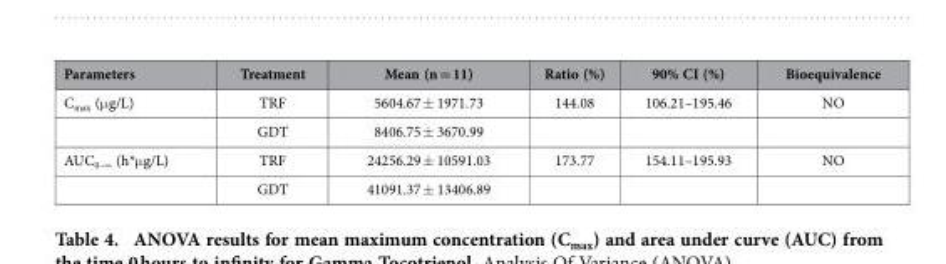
<table><thead><tr><td>Parameters</td><td>Treatment</td><td>Mean (n = 11)</td><td>Ratio (%)</td><td>90% CI (%)</td><td>Bioequivalence</td></tr></thead><tbody><tr><td rowspan="2">C<sub>max</sub> (μ g/L)</td><td>TRF</td><td>5604.67 ± 1971.73</td><td>144.08</td><td>106.21–195.46</td><td>NO</td></tr><tr><td>GDT</td><td>8406.75 ± 3670.99</td><td></td><td></td><td></td></tr><tr><td rowspan="2">AUC<sub>0–∞</sub> (h*μ g/L)</td><td>TRF</td><td>24256.29 ± 10591.03</td><td>173.77</td><td>154.11–195.93</td><td>NO</td></tr><tr><td>GDT</td><td>41091.37 ± 13406.89</td><td></td><td></td><td></td></tr></tbody></table>